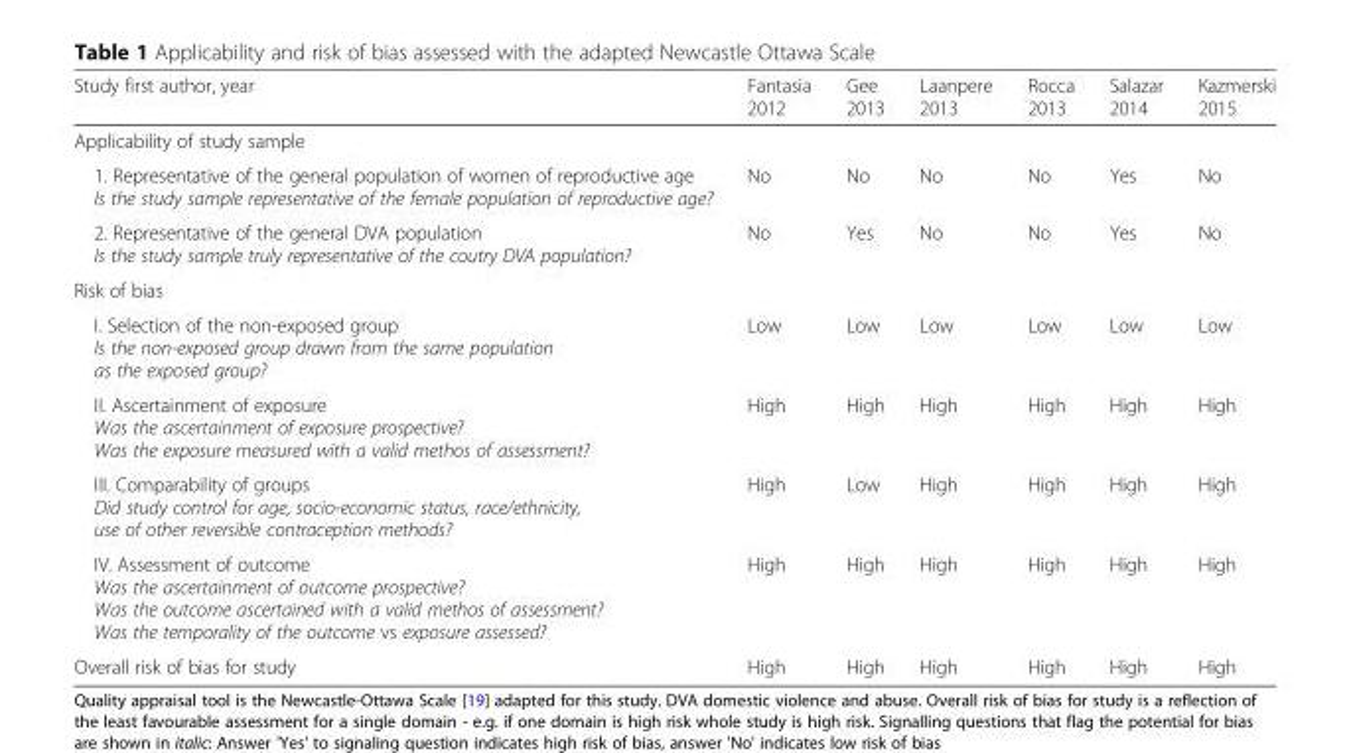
<table><thead><tr><td>Study first author, year</td><td>Fantasia 2012</td><td>Gee 2013</td><td>Laanpere 2013</td><td>Rocca 2013</td><td>Salazar 2014</td><td>Kazmerski 2015</td></tr></thead><tbody><tr><td colspan="7">Applicability of study sample</td></tr><tr><td>1. Representative of the general population of women of reproductive age Is the study sample representative of the female population of reproductive age?</td><td>No</td><td>No</td><td>No</td><td>No</td><td>Yes</td><td>No</td></tr><tr><td>2. Representative of the general DVA population Is the study sample truly representative of the coutry DVA population?</td><td>No</td><td>Yes</td><td>No</td><td>No</td><td>Yes</td><td>No</td></tr><tr><td colspan="7">Risk of bias</td></tr><tr><td>I. Selection of the non-exposed group Is the non-exposed group drawn from the same population as the exposed group?</td><td>Low</td><td>Low</td><td>Low</td><td>Low</td><td>Low</td><td>Low</td></tr><tr><td>II. Ascertainment of exposure Was the ascertainment of exposure prospective? Was the exposure measured with a valid methos of assessment?</td><td>High</td><td>High</td><td>High</td><td>High</td><td>High</td><td>High</td></tr><tr><td>III. Comparability of groups Did study control for age, socio-economic status, race/ethnicity, use of other reversible contraception methods?</td><td>High</td><td>Low</td><td>High</td><td>High</td><td>High</td><td>High</td></tr><tr><td>IV. Assessment of outcome Was the ascertainment of outcome prospective? Was the outcome ascertained with a valid methos of assessment? Was the temporality of the outcome vs exposure assessed?</td><td>High</td><td>High</td><td>High</td><td>High</td><td>High</td><td>High</td></tr><tr><td>Overall risk of bias for study</td><td>High</td><td>High</td><td>High</td><td>High</td><td>High</td><td>High</td></tr></tbody></table>